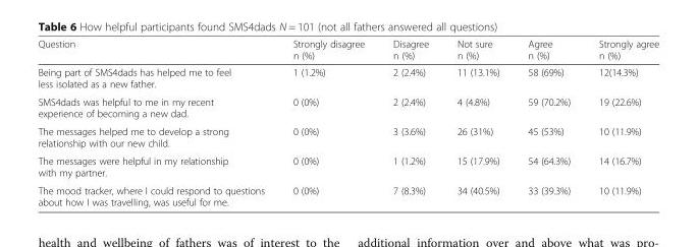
<table><thead><tr><td>Question</td><td>Strongly disagree n (%)</td><td>Disagree n (%)</td><td>Not sure n (%)</td><td>Agree n (%)</td><td>Strongly agree n (%)</td></tr></thead><tbody><tr><td>Being part of SMS4dads has helped me to feel less isolated as a new father.</td><td>1 (1.2%)</td><td>2 (2.4%)</td><td>11 (13.1%)</td><td>58 (69%)</td><td>12(14.3%)</td></tr><tr><td>SMS4dads was helpful to me in my recent experience of becoming a new dad.</td><td>0 (0%)</td><td>2 (2.4%)</td><td>4 (4.8%)</td><td>59 (70.2%)</td><td>19 (22.6%)</td></tr><tr><td>The messages helped me to develop a strong relationship with our new child.</td><td>0 (0%)</td><td>3 (3.6%)</td><td>26 (31%)</td><td>45 (53%)</td><td>10 (11.9%)</td></tr><tr><td>The messages were helpful in my relationship with my partner.</td><td>0 (0%)</td><td>1 (1.2%)</td><td>15 (17.9%)</td><td>54 (64.3%)</td><td>14 (16.7%)</td></tr><tr><td>The mood tracker, where I could respond to questions about how I was travelling, was useful for me.</td><td>0 (0%)</td><td>7 (8.3%)</td><td>34 (40.5%)</td><td>33 (39.3%)</td><td>10 (11.9%)</td></tr></tbody></table>